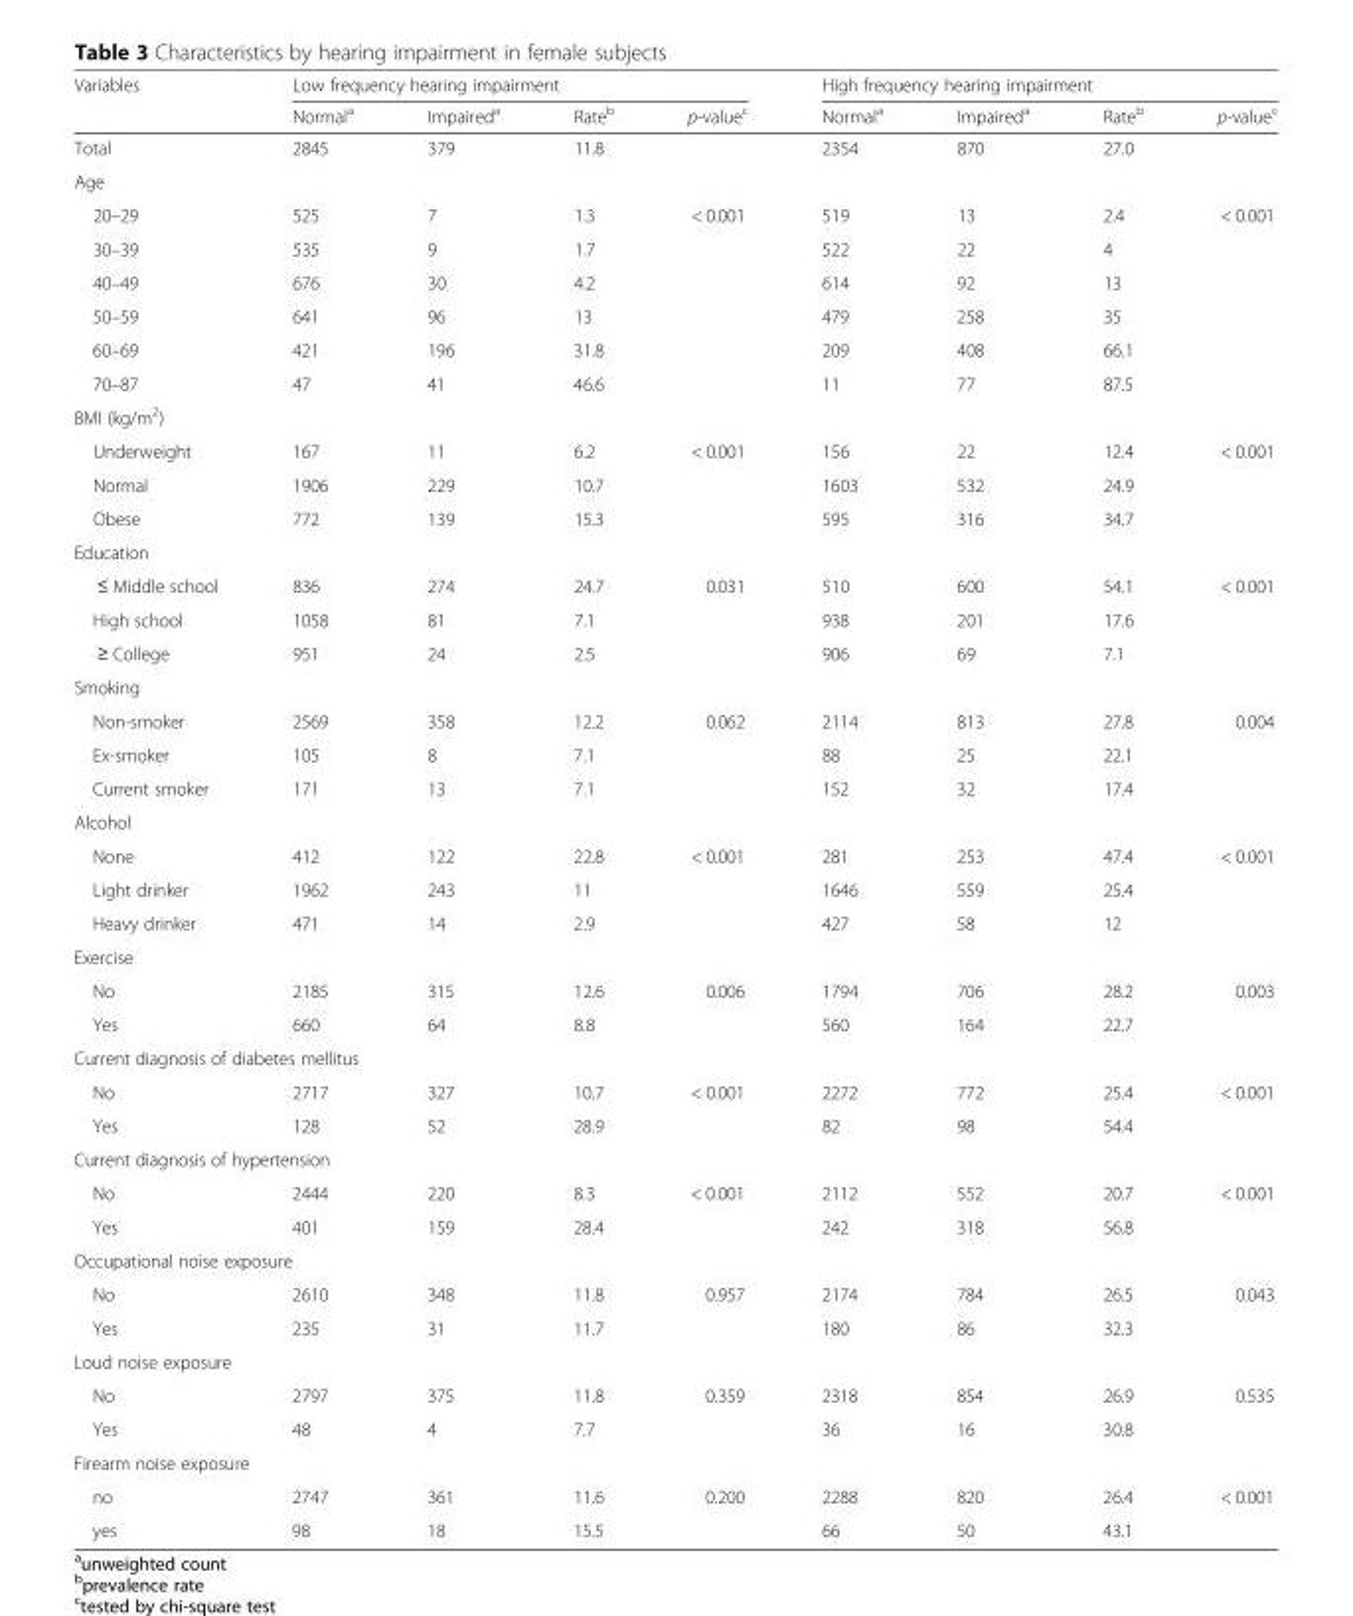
<table><thead><tr><td rowspan="2">Variables</td><td colspan="4">Low frequency hearing impairment</td><td colspan="4">High frequency hearing impairment</td></tr><tr><td>Normal<sup>a</sup></td><td>Impaired<sup>a</sup></td><td>Rate<sup>b</sup></td><td>p-value<sup>c</sup></td><td>Normal<sup>a</sup></td><td>Impaired<sup>a</sup></td><td>Rate<sup>b</sup></td><td>p-value<sup>c</sup></td></tr></thead><tbody><tr><td>Total</td><td>2845</td><td>379</td><td>11.8</td><td></td><td>2354</td><td>870</td><td>27.0</td><td></td></tr><tr><td colspan="9">Age</td></tr><tr><td>20–29</td><td>525</td><td>7</td><td>1.3</td><td>&lt; 0.001</td><td>519</td><td>13</td><td>2.4</td><td>&lt; 0.001</td></tr><tr><td>30–39</td><td>535</td><td>9</td><td>1.7</td><td></td><td>522</td><td>22</td><td>4</td><td></td></tr><tr><td>40–49</td><td>676</td><td>30</td><td>4.2</td><td></td><td>614</td><td>92</td><td>13</td><td></td></tr><tr><td>50–59</td><td>641</td><td>96</td><td>13</td><td></td><td>479</td><td>258</td><td>35</td><td></td></tr><tr><td>60–69</td><td>421</td><td>196</td><td>31.8</td><td></td><td>209</td><td>408</td><td>66.1</td><td></td></tr><tr><td>70–87</td><td>47</td><td>41</td><td>46.6</td><td></td><td>11</td><td>77</td><td>87.5</td><td></td></tr><tr><td colspan="9">BMI (kg/m<sup>2</sup>)</td></tr><tr><td>Underweight</td><td>167</td><td>11</td><td>6.2</td><td>&lt; 0.001</td><td>156</td><td>22</td><td>12.4</td><td>&lt; 0.001</td></tr><tr><td>Normal</td><td>1906</td><td>229</td><td>10.7</td><td></td><td>1603</td><td>532</td><td>24.9</td><td></td></tr><tr><td>Obese</td><td>772</td><td>139</td><td>15.3</td><td></td><td>595</td><td>316</td><td>34.7</td><td></td></tr><tr><td colspan="9">Education</td></tr><tr><td>≤ Middle school</td><td>836</td><td>274</td><td>24.7</td><td>0.031</td><td>510</td><td>600</td><td>54.1</td><td>&lt; 0.001</td></tr><tr><td>High school</td><td>1058</td><td>81</td><td>7.1</td><td></td><td>938</td><td>201</td><td>17.6</td><td></td></tr><tr><td>≥ College</td><td>951</td><td>24</td><td>2.5</td><td></td><td>906</td><td>69</td><td>7.1</td><td></td></tr><tr><td colspan="9">Smoking</td></tr><tr><td>Non-smoker</td><td>2569</td><td>358</td><td>12.2</td><td>0.062</td><td>2114</td><td>813</td><td>27.8</td><td>0.004</td></tr><tr><td>Ex-smoker</td><td>105</td><td>8</td><td>7.1</td><td></td><td>88</td><td>25</td><td>22.1</td><td></td></tr><tr><td>Current smoker</td><td>171</td><td>13</td><td>7.1</td><td></td><td>152</td><td>32</td><td>17.4</td><td></td></tr><tr><td colspan="9">Alcohol</td></tr><tr><td>None</td><td>412</td><td>122</td><td>22.8</td><td>&lt; 0.001</td><td>281</td><td>253</td><td>47.4</td><td>&lt; 0.001</td></tr><tr><td>Light drinker</td><td>1962</td><td>243</td><td>11</td><td></td><td>1646</td><td>559</td><td>25.4</td><td></td></tr><tr><td>Heavy drinker</td><td>471</td><td>14</td><td>2.9</td><td></td><td>427</td><td>58</td><td>12</td><td></td></tr><tr><td colspan="9">Exercise</td></tr><tr><td>No</td><td>2185</td><td>315</td><td>12.6</td><td>0.006</td><td>1794</td><td>706</td><td>28.2</td><td>0.003</td></tr><tr><td>Yes</td><td>660</td><td>64</td><td>8.8</td><td></td><td>560</td><td>164</td><td>22.7</td><td></td></tr><tr><td colspan="9">Current diagnosis of diabetes mellitus</td></tr><tr><td>No</td><td>2717</td><td>327</td><td>10.7</td><td>&lt; 0.001</td><td>2272</td><td>772</td><td>25.4</td><td>&lt; 0.001</td></tr><tr><td>Yes</td><td>128</td><td>52</td><td>28.9</td><td></td><td>82</td><td>98</td><td>54.4</td><td></td></tr><tr><td colspan="9">Current diagnosis of hypertension</td></tr><tr><td>No</td><td>2444</td><td>220</td><td>8.3</td><td>&lt; 0.001</td><td>2112</td><td>552</td><td>20.7</td><td>&lt; 0.001</td></tr><tr><td>Yes</td><td>401</td><td>159</td><td>28.4</td><td></td><td>242</td><td>318</td><td>56.8</td><td></td></tr><tr><td colspan="9">Occupational noise exposure</td></tr><tr><td>No</td><td>2610</td><td>348</td><td>11.8</td><td>0.957</td><td>2174</td><td>784</td><td>26.5</td><td>0.043</td></tr><tr><td>Yes</td><td>235</td><td>31</td><td>11.7</td><td></td><td>180</td><td>86</td><td>32.3</td><td></td></tr><tr><td colspan="9">Loud noise exposure</td></tr><tr><td>No</td><td>2797</td><td>375</td><td>11.8</td><td>0.359</td><td>2318</td><td>854</td><td>26.9</td><td>0.535</td></tr><tr><td>Yes</td><td>48</td><td>4</td><td>7.7</td><td></td><td>36</td><td>16</td><td>30.8</td><td></td></tr><tr><td colspan="9">Firearm noise exposure</td></tr><tr><td>no</td><td>2747</td><td>361</td><td>11.6</td><td>0.200</td><td>2288</td><td>820</td><td>26.4</td><td>&lt; 0.001</td></tr><tr><td>yes</td><td>98</td><td>18</td><td>15.5</td><td></td><td>66</td><td>50</td><td>43.1</td><td></td></tr></tbody></table>